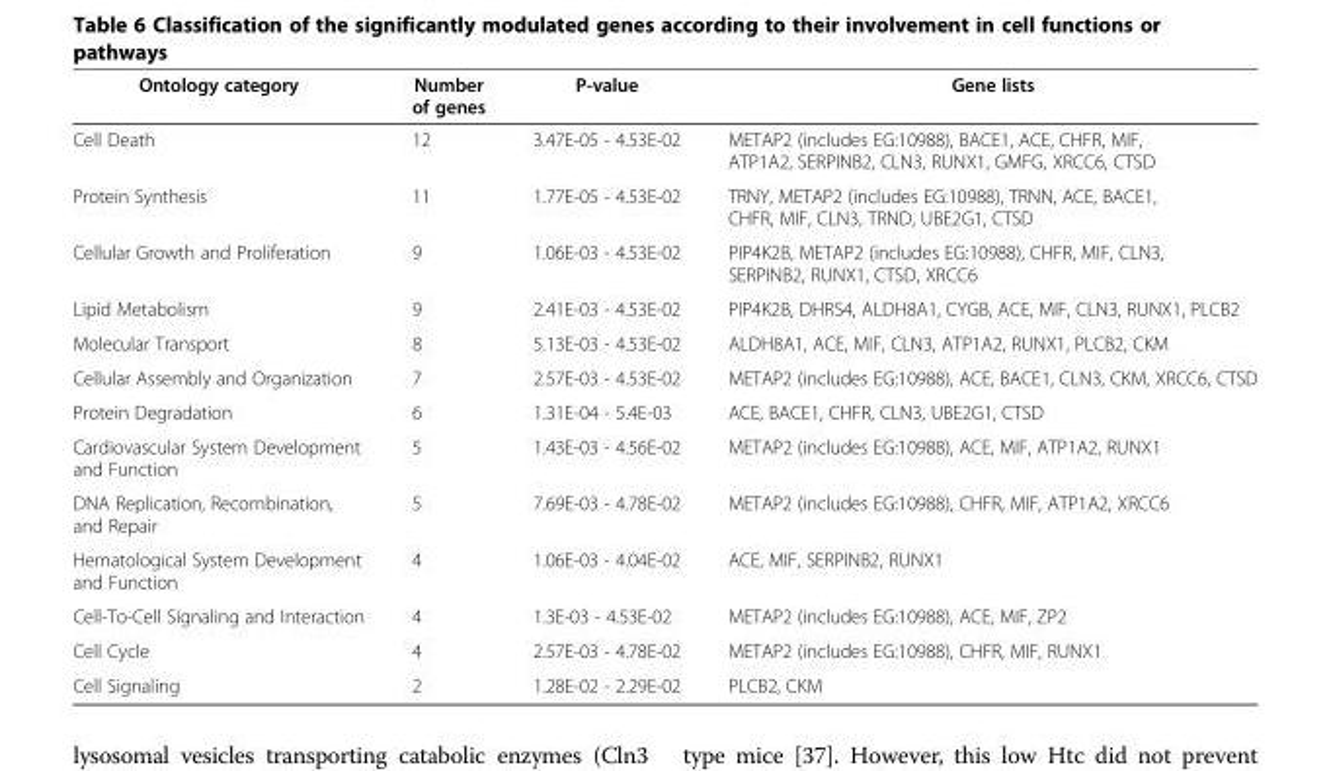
<table><thead><tr><td>Ontology category</td><td>Number of genes</td><td>P-value</td><td>Gene lists</td></tr></thead><tbody><tr><td>Cell Death</td><td>12</td><td>3.47E-05 - 4.53E-02</td><td>METAP2 (includes EG:10988), BACE1, ACE, CHFR, MIF, ATP1A2, SERPINB2, CLN3, RUNX1, GMFG, XRCC6, CTSD</td></tr><tr><td>Protein Synthesis</td><td>11</td><td>1.77E-05 - 4.53E-02</td><td>TRNY, METAP2 (includes EG:10988), TRNN, ACE, BACE1, CHFR, MIF, CLN3, TRND, UBE2G1, CTSD</td></tr><tr><td>Cellular Growth and Proliferation</td><td>9</td><td>1.06E-03 - 4.53E-02</td><td>PIP4K2B, METAP2 (includes EG:10988), CHFR, MIF, CLN3, SERPINB2, RUNX1, CTSD, XRCC6</td></tr><tr><td>Lipid Metabolism</td><td>9</td><td>2.41E-03 - 4.53E-02</td><td>PIP4K2B, DHRS4, ALDH8A1, CYGB, ACE, MIF, CLN3, RUNX1, PLCB2</td></tr><tr><td>Molecular Transport</td><td>8</td><td>5.13E-03 - 4.53E-02</td><td>ALDH8A1, ACE, MIF, CLN3, ATP1A2, RUNX1, PLCB2, CKM</td></tr><tr><td>Cellular Assembly and Organization</td><td>7</td><td>2.57E-03 - 4.53E-02</td><td>METAP2 (includes EG:10988), ACE, BACE1, CLN3, CKM, XRCC6, CTSD</td></tr><tr><td>Protein Degradation</td><td>6</td><td>1.31E-04 - 5.4E-03</td><td>ACE, BACE1, CHFR, CLN3, UBE2G1, CTSD</td></tr><tr><td>Cardiovascular System Development and Function</td><td>5</td><td>1.43E-03 - 4.56E-02</td><td>METAP2 (includes EG:10988), ACE, MIF, ATP1A2, RUNX1</td></tr><tr><td>DNA Replication, Recombination, and Repair</td><td>5</td><td>7.69E-03 - 4.78E-02</td><td>METAP2 (includes EG:10988), CHFR, MIF, ATP1A2, XRCC6</td></tr><tr><td>Hematological System Development and Function</td><td>4</td><td>1.06E-03 - 4.04E-02</td><td>ACE, MIF, SERPINB2, RUNX1</td></tr><tr><td>Cell-To-Cell Signaling and Interaction</td><td>4</td><td>1.3E-03 - 4.53E-02</td><td>METAP2 (includes EG:10988), ACE, MIF, ZP2</td></tr><tr><td>Cell Cycle</td><td>4</td><td>2.57E-03 - 4.78E-02</td><td>METAP2 (includes EG:10988), CHFR, MIF, RUNX1</td></tr><tr><td>Cell Signaling</td><td>2</td><td>1.28E-02 - 2.29E-02</td><td>PLCB2, CKM</td></tr></tbody></table>